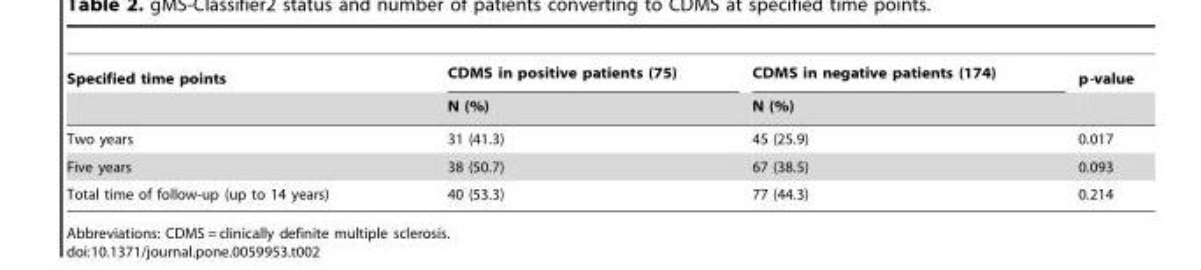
<table><thead><tr><td rowspan="2">Specified time points</td><td rowspan="2">CDMS in positive patients (75) N (%)</td><td rowspan="2">CDMS in negative patients (174) N (%)</td><td rowspan="2">p-value</td></tr><tr></tr></thead><tbody><tr><td>Two years</td><td>31 (41.3)</td><td>45 (25.9)</td><td>0.017</td></tr><tr><td>Five years</td><td>38 (50.7)</td><td>67 (38.5)</td><td>0.093</td></tr><tr><td>Total time of follow-up (up to 14 years)</td><td>40 (53.3)</td><td>77 (44.3)</td><td>0.214</td></tr></tbody></table>